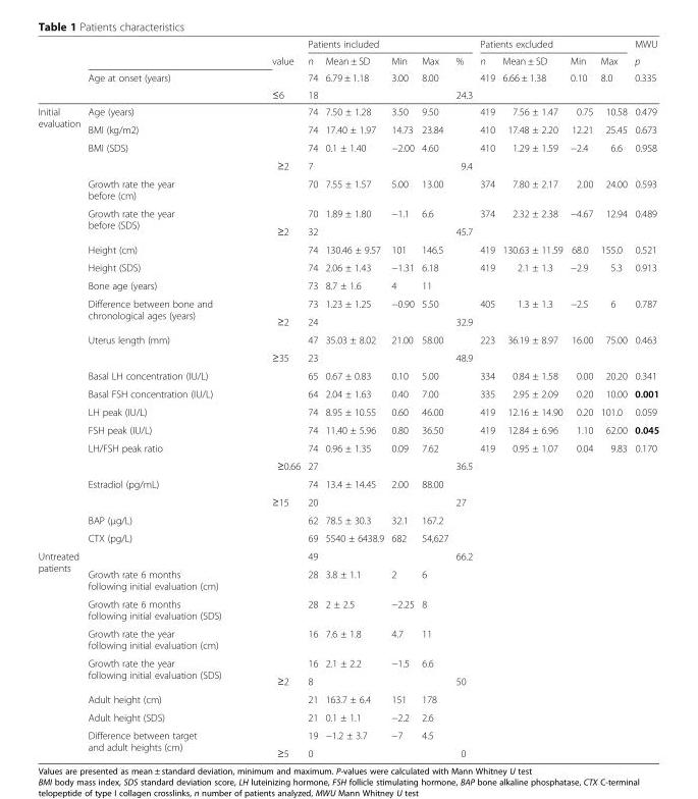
<table><thead><tr><td rowspan="4"></td><td rowspan="4">Age at onset (years)</td><td rowspan="4">value ≤6</td><td colspan="5">Patients included</td><td colspan="4">Patients excluded</td><td rowspan="4">MWU p 0.335</td></tr><tr><td rowspan="3">n 74 18</td><td rowspan="3">Mean ± SD 6.79 ± 1.18</td><td rowspan="3">Min 3.00</td><td rowspan="3">Max 8.00</td><td rowspan="3">% 24.3</td><td rowspan="3">n 419</td><td rowspan="3">Mean ± SD 6.66 ± 1.38</td><td rowspan="3">Min 0.10</td><td rowspan="3">Max 8.0</td></tr><tr></tr><tr></tr></thead><tbody><tr><td rowspan="24">Initial evaluation</td><td>Age (years)</td><td></td><td>74</td><td>7.50 ± 1.28</td><td>3.50</td><td>9.50</td><td></td><td>419</td><td>7.56 ± 1.47</td><td>0.75</td><td>10.58</td><td>0.479</td></tr><tr><td>BMI (kg/m2)</td><td></td><td>74</td><td>17.40 ± 1.97</td><td>14.73</td><td>23.84</td><td></td><td>410</td><td>17.48 ± 2.20</td><td>12.21</td><td>25.45</td><td>0.673</td></tr><tr><td rowspan="2">BMI (SDS)</td><td></td><td>74</td><td>0.1 ± 1.40</td><td>−2.00</td><td>4.60</td><td></td><td>410</td><td>1.29 ± 1.59</td><td>−2.4</td><td>6.6</td><td>0.958</td></tr><tr><td>≥2</td><td>7</td><td></td><td></td><td></td><td>9.4</td><td></td><td></td><td></td><td></td><td></td></tr><tr><td>Growth rate the year before (cm)</td><td></td><td>70</td><td>7.55 ± 1.57</td><td>5.00</td><td>13.00</td><td></td><td>374</td><td>7.80 ± 2.17</td><td>2.00</td><td>24.00</td><td>0.593</td></tr><tr><td rowspan="2">Growth rate the year before (SDS)</td><td></td><td>70</td><td>1.89 ± 1.80</td><td>−1.1</td><td>6.6</td><td></td><td>374</td><td>2.32 ± 2.38</td><td>−4.67</td><td>12.94</td><td>0.489</td></tr><tr><td>≥2</td><td>32</td><td></td><td></td><td></td><td>45.7</td><td></td><td></td><td></td><td></td><td></td></tr><tr><td>Height (cm)</td><td></td><td>74</td><td>130.46 ± 9.57</td><td>101</td><td>146.5</td><td></td><td>419</td><td>130.63 ± 11.59</td><td>68.0</td><td>155.0</td><td>0.521</td></tr><tr><td>Height (SDS)</td><td></td><td>74</td><td>2.06 ± 1.43</td><td>−1.31</td><td>6.18</td><td></td><td>419</td><td>2.1 ± 1.3</td><td>−2.9</td><td>5.3</td><td>0.913</td></tr><tr><td>Bone age (years)</td><td></td><td>73</td><td>8.7 ± 1.6</td><td>4</td><td>11</td><td></td><td></td><td></td><td></td><td></td><td></td></tr><tr><td rowspan="2">Difference between bone and chronological ages (years)</td><td></td><td>73</td><td>1.23 ± 1.25</td><td>−0.90</td><td>5.50</td><td></td><td>405</td><td>1.3 ± 1.3</td><td>−2.5</td><td>6</td><td>0.787</td></tr><tr><td>≥2</td><td>24</td><td></td><td></td><td></td><td>32.9</td><td></td><td></td><td></td><td></td><td></td></tr><tr><td rowspan="2">Uterus length (mm)</td><td></td><td>47</td><td>35.03 ± 8.02</td><td>21.00</td><td>58.00</td><td></td><td>223</td><td>36.19 ± 8.97</td><td>16.00</td><td>75.00</td><td>0.463</td></tr><tr><td>≥35</td><td>23</td><td></td><td></td><td></td><td>48.9</td><td></td><td></td><td></td><td></td><td></td></tr><tr><td>Basal LH concentration (IU/L)</td><td></td><td>65</td><td>0.67 ± 0.83</td><td>0.10</td><td>5.00</td><td></td><td>334</td><td>0.84 ± 1.58</td><td>0.00</td><td>20.20</td><td>0.341</td></tr><tr><td>Basal FSH concentration (IU/L)</td><td></td><td>64</td><td>2.04 ± 1.63</td><td>0.40</td><td>7.00</td><td></td><td>335</td><td>2.95 ± 2.09</td><td>0.20</td><td>10.00</td><td>0.001</td></tr><tr><td>LH peak (IU/L)</td><td></td><td>74</td><td>8.95 ± 10.55</td><td>0.60</td><td>46.00</td><td></td><td>419</td><td>12.16 ± 14.90</td><td>0.20</td><td>101.0</td><td>0.059</td></tr><tr><td>FSH peak (IU/L)</td><td></td><td>74</td><td>11.40 ± 5.96</td><td>0.80</td><td>36.50</td><td></td><td>419</td><td>12.84 ± 6.96</td><td>1.10</td><td>62.00</td><td>0.045</td></tr><tr><td rowspan="2">LH/FSH peak ratio</td><td></td><td>74</td><td>0.96 ± 1.35</td><td>0.09</td><td>7.62</td><td></td><td>419</td><td>0.95 ± 1.07</td><td>0.04</td><td>9.83</td><td>0.170</td></tr><tr><td>≥0.66</td><td>27</td><td></td><td></td><td></td><td>36.5</td><td></td><td></td><td></td><td></td><td rowspan="5"></td></tr><tr><td rowspan="2">Estradiol (pg/mL)</td><td></td><td>74</td><td>13.4 ± 14.45</td><td>2.00</td><td>88.00</td><td></td><td></td><td></td><td></td><td></td></tr><tr><td>≥15</td><td>20</td><td></td><td></td><td></td><td>27</td><td></td><td></td><td></td><td></td></tr><tr><td>BAP (μg/L)</td><td></td><td>62</td><td>78.5 ± 30.3</td><td>32.1</td><td>167.2</td><td></td><td></td><td></td><td></td><td></td></tr><tr><td>CTX (pg/L)</td><td></td><td>69</td><td>5540 ± 6438.9</td><td>682</td><td>54,627</td><td></td><td></td><td></td><td></td><td></td></tr><tr><td rowspan="10">Untreated patients</td><td></td><td></td><td>49</td><td></td><td></td><td></td><td>66.2</td><td></td><td></td><td></td><td></td><td rowspan="10"></td></tr><tr><td>Growth rate 6 months following initial evaluation (cm)</td><td></td><td>28</td><td>3.8 ± 1.1</td><td>2</td><td>6</td><td></td><td></td><td></td><td></td><td></td></tr><tr><td>Growth rate 6 months following initial evaluation (SDS)</td><td></td><td>28</td><td>2 ± 2.5</td><td>−2.25</td><td>8</td><td></td><td></td><td></td><td></td><td></td></tr><tr><td>Growth rate the year following initial evaluation (cm)</td><td></td><td>16</td><td>7.6 ± 1.8</td><td>4.7</td><td>11</td><td></td><td></td><td></td><td></td><td></td></tr><tr><td rowspan="2">Growth rate the year following initial evaluation (SDS)</td><td></td><td>16</td><td>2.1 ± 2.2</td><td>−1.5</td><td>6.6</td><td></td><td></td><td></td><td></td><td></td></tr><tr><td>≥2</td><td>8</td><td></td><td></td><td></td><td>50</td><td></td><td></td><td></td><td></td></tr><tr><td>Adult height (cm)</td><td></td><td>21</td><td>163.7 ± 6.4</td><td>151</td><td>178</td><td></td><td></td><td></td><td></td><td></td></tr><tr><td>Adult height (SDS)</td><td></td><td>21</td><td>0.1 ± 1.1</td><td>−2.2</td><td>2.6</td><td></td><td></td><td></td><td></td><td></td></tr><tr><td rowspan="2">Difference between target and adult heights (cm)</td><td></td><td>19</td><td>−1.2 ± 3.7</td><td>−7</td><td>4.5</td><td></td><td></td><td></td><td></td><td></td></tr><tr><td>≥5</td><td>0</td><td></td><td></td><td></td><td>0</td><td></td><td></td><td></td><td></td></tr></tbody></table>